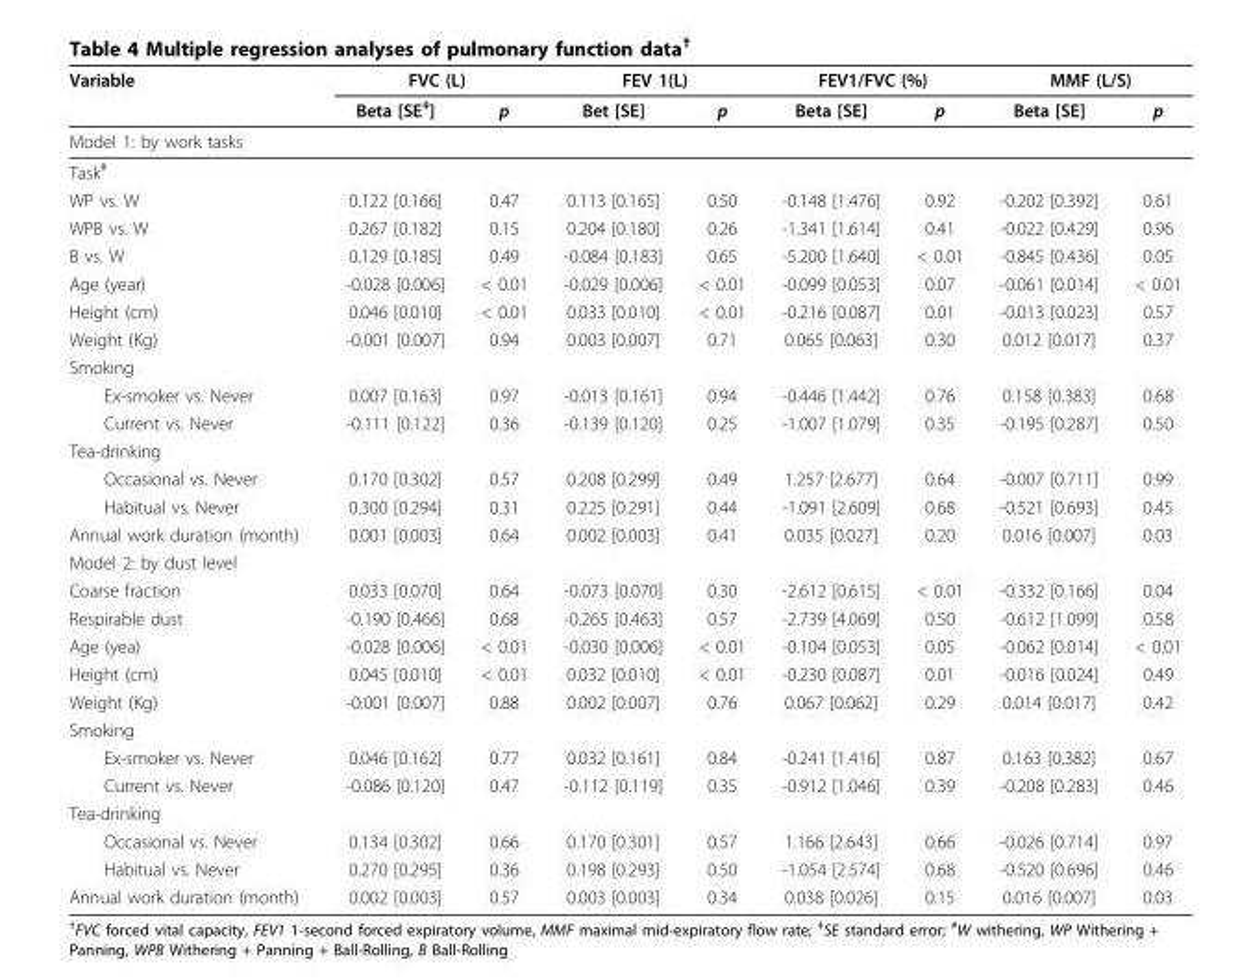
<table><thead><tr><td rowspan="2">Variable</td><td colspan="2">FVC (L)</td><td colspan="2">FEV 1(L)</td><td colspan="2">FEV1/FVC (%)</td><td colspan="2">MMF (L/S)</td></tr><tr><td>Beta [SE<sup>‡</sup>]</td><td>p</td><td>Bet [SE]</td><td>p</td><td>Beta [SE]</td><td>p</td><td>Beta [SE]</td><td>p</td></tr></thead><tbody><tr><td colspan="9">Model 1: by work tasks</td></tr><tr><td colspan="9">Task<sup>#</sup></td></tr><tr><td>WP vs. W</td><td>0.122 [0.166]</td><td>0.47</td><td>0.113 [0.165]</td><td>0.50</td><td>-0.148 [1.476]</td><td>0.92</td><td>-0.202 [0.392]</td><td>0.61</td></tr><tr><td>WPB vs. W</td><td>0.267 [0.182]</td><td>0.15</td><td>0.204 [0.180]</td><td>0.26</td><td>-1.341 [1.614]</td><td>0.41</td><td>-0.022 [0.429]</td><td>0.96</td></tr><tr><td>B vs. W</td><td>0.129 [0.185]</td><td>0.49</td><td>-0.084 [0.183]</td><td>0.65</td><td>-5.200 [1.640]</td><td>&lt; 0.01</td><td>-0.845 [0.436]</td><td>0.05</td></tr><tr><td>Age (year)</td><td>-0.028 [0.006]</td><td>&lt; 0.01</td><td>-0.029 [0.006]</td><td>&lt; 0.01</td><td>-0.099 [0.053]</td><td>0.07</td><td>-0.061 [0.014]</td><td>&lt; 0.01</td></tr><tr><td>Height (cm)</td><td>0.046 [0.010]</td><td>&lt; 0.01</td><td>0.033 [0.010]</td><td>&lt; 0.01</td><td>-0.216 [0.087]</td><td>0.01</td><td>-0.013 [0.023]</td><td>0.57</td></tr><tr><td>Weight (Kg)</td><td>-0.001 [0.007]</td><td>0.94</td><td>0.003 [0.007]</td><td>0.71</td><td>0.065 [0.063]</td><td>0.30</td><td>0.012 [0.017]</td><td>0.37</td></tr><tr><td colspan="9">Smoking</td></tr><tr><td>Ex-smoker vs. Never</td><td>0.007 [0.163]</td><td>0.97</td><td>-0.013 [0.161]</td><td>0.94</td><td>-0.446 [1.442]</td><td>0.76</td><td>0.158 [0.383]</td><td>0.68</td></tr><tr><td>Current vs. Never</td><td>-0.111 [0.122]</td><td>0.36</td><td>-0.139 [0.120]</td><td>0.25</td><td>-1.007 [1.079]</td><td>0.35</td><td>-0.195 [0.287]</td><td>0.50</td></tr><tr><td colspan="9">Tea-drinking</td></tr><tr><td>Occasional vs. Never</td><td>0.170 [0.302]</td><td>0.57</td><td>0.208 [0.299]</td><td>0.49</td><td>1.257 [2.677]</td><td>0.64</td><td>-0.007 [0.711]</td><td>0.99</td></tr><tr><td>Habitual vs. Never</td><td>0.300 [0.294]</td><td>0.31</td><td>0.225 [0.291]</td><td>0.44</td><td>-1.091 [2.609]</td><td>0.68</td><td>-0.521 [0.693]</td><td>0.45</td></tr><tr><td>Annual work duration (month)</td><td>0.001 [0.003]</td><td>0.64</td><td>0.002 [0.003]</td><td>0.41</td><td>0.035 [0.027]</td><td>0.20</td><td>0.016 [0.007]</td><td>0.03</td></tr><tr><td colspan="9">Model 2: by dust level</td></tr><tr><td>Coarse fraction</td><td>0.033 [0.070]</td><td>0.64</td><td>-0.073 [0.070]</td><td>0.30</td><td>-2.612 [0.615]</td><td>&lt; 0.01</td><td>-0.332 [0.166]</td><td>0.04</td></tr><tr><td>Respirable dust</td><td>-0.190 [0.466]</td><td>0.68</td><td>-0.265 [0.463]</td><td>0.57</td><td>-2.739 [4.069]</td><td>0.50</td><td>-0.612 [1.099]</td><td>0.58</td></tr><tr><td>Age (yea)</td><td>-0.028 [0.006]</td><td>&lt; 0.01</td><td>-0.030 [0.006]</td><td>&lt; 0.01</td><td>-0.104 [0.053]</td><td>0.05</td><td>-0.062 [0.014]</td><td>&lt; 0.01</td></tr><tr><td>Height (cm)</td><td>0.045 [0.010]</td><td>&lt; 0.01</td><td>0.032 [0.010]</td><td>&lt; 0.01</td><td>-0.230 [0.087]</td><td>0.01</td><td>-0.016 [0.024]</td><td>0.49</td></tr><tr><td>Weight (Kg)</td><td>-0.001 [0.007]</td><td>0.88</td><td>0.002 [0.007]</td><td>0.76</td><td>0.067 [0.062]</td><td>0.29</td><td>0.014 [0.017]</td><td>0.42</td></tr><tr><td colspan="9">Smoking</td></tr><tr><td>Ex-smoker vs. Never</td><td>0.046 [0.162]</td><td>0.77</td><td>0.032 [0.161]</td><td>0.84</td><td>-0.241 [1.416]</td><td>0.87</td><td>0.163 [0.382]</td><td>0.67</td></tr><tr><td>Current vs. Never</td><td>-0.086 [0.120]</td><td>0.47</td><td>-0.112 [0.119]</td><td>0.35</td><td>-0.912 [1.046]</td><td>0.39</td><td>-0.208 [0.283]</td><td>0.46</td></tr><tr><td colspan="9">Tea-drinking</td></tr><tr><td>Occasional vs. Never</td><td>0.134 [0.302]</td><td>0.66</td><td>0.170 [0.301]</td><td>0.57</td><td>1.166 [2.643]</td><td>0.66</td><td>-0.026 [0.714]</td><td>0.97</td></tr><tr><td>Habitual vs. Never</td><td>0.270 [0.295]</td><td>0.36</td><td>0.198 [0.293]</td><td>0.50</td><td>-1.054 [2.574]</td><td>0.68</td><td>-0.520 [0.696]</td><td>0.46</td></tr><tr><td>Annual work duration (month)</td><td>0.002 [0.003]</td><td>0.57</td><td>0.003 [0.003]</td><td>0.34</td><td>0.038 [0.026]</td><td>0.15</td><td>0.016 [0.007]</td><td>0.03</td></tr></tbody></table>